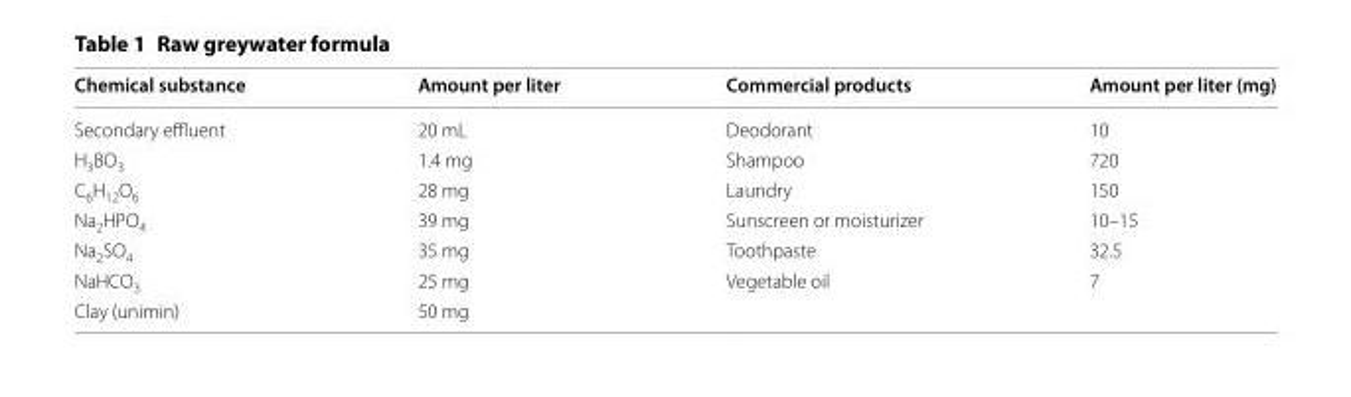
<table><thead><tr><td>Chemical substance</td><td>Amount per liter</td><td>Commercial products</td><td>Amount per liter (mg)</td></tr></thead><tbody><tr><td>Secondary effluent</td><td>20 mL</td><td>Deodorant</td><td>10</td></tr><tr><td>H<sub>3</sub>BO<sub>3</sub></td><td>1.4 mg</td><td>Shampoo</td><td>720</td></tr><tr><td>C<sub>6</sub>H<sub>12</sub>O<sub>6</sub></td><td>28 mg</td><td>Laundry</td><td>150</td></tr><tr><td>Na<sub>2</sub>HPO<sub>4</sub></td><td>39 mg</td><td>Sunscreen or moisturizer</td><td>10–15</td></tr><tr><td>Na<sub>2</sub>SO<sub>4</sub></td><td>35 mg</td><td>Toothpaste</td><td>32.5</td></tr><tr><td>NaHCO<sub>3</sub></td><td>25 mg</td><td>Vegetable oil</td><td>7</td></tr><tr><td>Clay (unimin)</td><td>50 mg</td><td></td><td></td></tr></tbody></table>